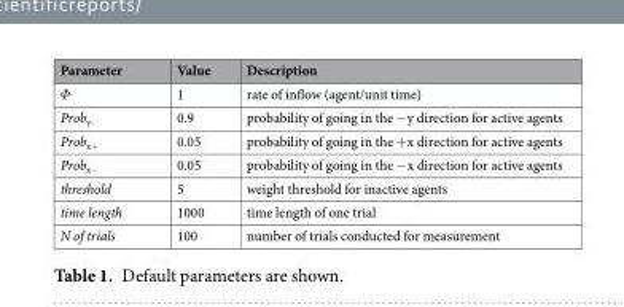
<table><thead><tr><td>Parameter</td><td>Value</td><td>Description</td></tr></thead><tbody><tr><td>Φ</td><td>1</td><td>rate of inflow (agent/unit time)</td></tr><tr><td>Prob<sub>y-</sub></td><td>0.9</td><td>probability of going in the −y direction for active agents</td></tr><tr><td>Prob<sub>x+</sub></td><td>0.05</td><td>probability of going in the +x direction for active agents</td></tr><tr><td>Prob<sub>x−</sub></td><td>0.05</td><td>probability of going in the −x direction for active agents</td></tr><tr><td>threshold</td><td>5</td><td>weight threshold for inactive agents</td></tr><tr><td>time length</td><td>1000</td><td>time length of one trial</td></tr><tr><td>N of trials</td><td>100</td><td>number of trials conducted for measurement</td></tr></tbody></table>